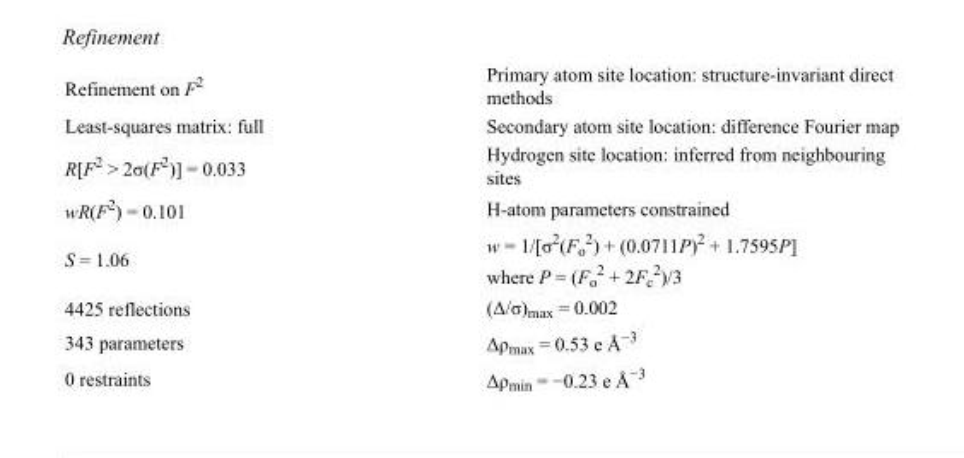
<table><tbody><tr><td>Refinement on F<sup>2</sup></td><td>Primary atom site location: structure-invariant direct methods</td></tr><tr><td>Least-squares matrix: full</td><td>Secondary atom site location: difference Fourier map</td></tr><tr><td>R[F<sup>2</sup> &gt; 2σ(F<sup>2</sup>)] = 0.033</td><td>Hydrogen site location: inferred from neighbouring sites</td></tr><tr><td>wR(F<sup>2</sup>) = 0.101</td><td>H-atom parameters constrained</td></tr><tr><td>S = 1.06</td><td>w = 1/[σ<sup>2</sup>(F<sub>o</sub> <sup>2</sup>) + (0.0711P)<sup>2</sup> + 1.7595P] where P = (F<sub>o</sub> <sup>2</sup> + 2F<sub>c</sub> <sup>2</sup>)/3</td></tr><tr><td>4425 reflections</td><td>(Δ/σ)<sub>max</sub> = 0.002</td></tr><tr><td>343 parameters</td><td>Δρ<sub>max</sub> = 0.53 e Å<sup>−3</sup></td></tr><tr><td>0 restraints</td><td>Δρ<sub>min</sub> = −0.23 e Å<sup>−3</sup></td></tr></tbody></table>